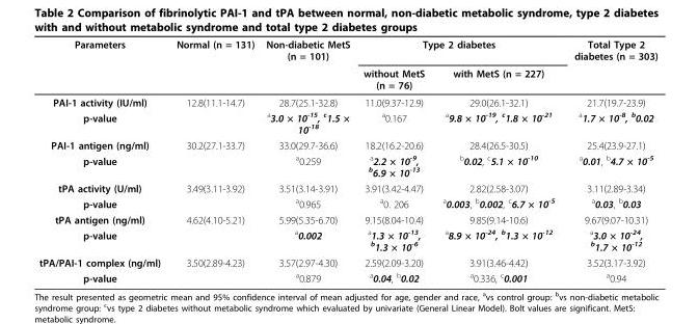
<table><thead><tr><td rowspan="2">Parameters</td><td rowspan="2">Normal (n = 131)</td><td rowspan="2">Non-diabetic MetS (n = 101)</td><td colspan="2">Type 2 diabetes</td><td rowspan="2">Total Type 2 diabetes (n = 303)</td></tr><tr><td>without MetS (n = 76)</td><td>with MetS (n = 227)</td></tr></thead><tbody><tr><td>PAI-1 activity (IU/ml)</td><td>12.8(11.1-14.7)</td><td>28.7(25.1-32.8)</td><td>11.0(9.37-12.9)</td><td>29.0(26.1-32.1)</td><td>21.7(19.7-23.9)</td></tr><tr><td>p-value</td><td></td><td><sup>a</sup>3.0 × 10<sup>-15</sup>, <sup>c</sup>1.5 × 10<sup>-18</sup></td><td><sup>a</sup>0.167</td><td><sup>a</sup>9.8 × 10<sup>-19</sup>, <sup>c</sup>1.8 × 10<sup>-21</sup></td><td><sup>a</sup>1.7 × 10<sup>-8</sup>, <sup>b</sup>0.02</td></tr><tr><td>PAI-1 antigen (ng/ml)</td><td>30.2(27.1-33.7)</td><td>33.0(29.7-36.6)</td><td>18.2(16.2-20.6)</td><td>28.4(26.5-30.5)</td><td>25.4(23.9-27.1)</td></tr><tr><td>p-value</td><td></td><td><sup>a</sup>0.259</td><td><sup>a</sup>2.2 × 10<sup>-9</sup>, <sup>b</sup>6.9 × 10<sup>-13</sup></td><td><sup>b</sup>0.02, <sup>c</sup>5.1 × 10<sup>-10</sup></td><td><sup>a</sup>0.01, <sup>b</sup>4.7 × 10<sup>-5</sup></td></tr><tr><td>tPA activity (U/ml)</td><td>3.49(3.11-3.92)</td><td>3.51(3.14-3.91)</td><td>3.91(3.42-4.47)</td><td>2.82(2.58-3.07)</td><td>3.11(2.89-3.34)</td></tr><tr><td>p-value</td><td></td><td><sup>a</sup>0.965</td><td><sup>a</sup>0. 206</td><td><sup>a</sup>0.003, <sup>b</sup>0.002, <sup>c</sup>6.7 × 10<sup>-5</sup></td><td><sup>a</sup>0.03, <sup>b</sup>0.03</td></tr><tr><td>tPA antigen (ng/ml)</td><td>4.62(4.10-5.21)</td><td>5.99(5.35-6.70)</td><td>9.15(8.04-10.4)</td><td>9.85(9.14-10.6)</td><td>9.67(9.07-10.31)</td></tr><tr><td>p-value</td><td></td><td><sup>a</sup>0.002</td><td><sup>a</sup>1.3 × 10<sup>-13</sup>, <sup>b</sup>1.3 × 10<sup>-6</sup></td><td><sup>a</sup>8.9 × 10<sup>-24</sup>, <sup>b</sup>1.3 × 10<sup>-12</sup></td><td><sup>a</sup>3.0 × 10<sup>-24</sup>, <sup>b</sup>1.7 × 10<sup>-12</sup></td></tr><tr><td>tPA/PAI-1 complex (ng/ml)</td><td>3.50(2.89-4.23)</td><td>3.57(2.97-4.30)</td><td>2.59(2.09-3.20)</td><td>3.91(3.46-4.42)</td><td>3.52(3.17-3.92)</td></tr><tr><td>p-value</td><td></td><td><sup>a</sup>0.879</td><td><sup>a</sup>0.04, <sup>b</sup>0.02</td><td><sup>a</sup>0.336, <sup>c</sup>0.001</td><td><sup>a</sup>0.94</td></tr></tbody></table>